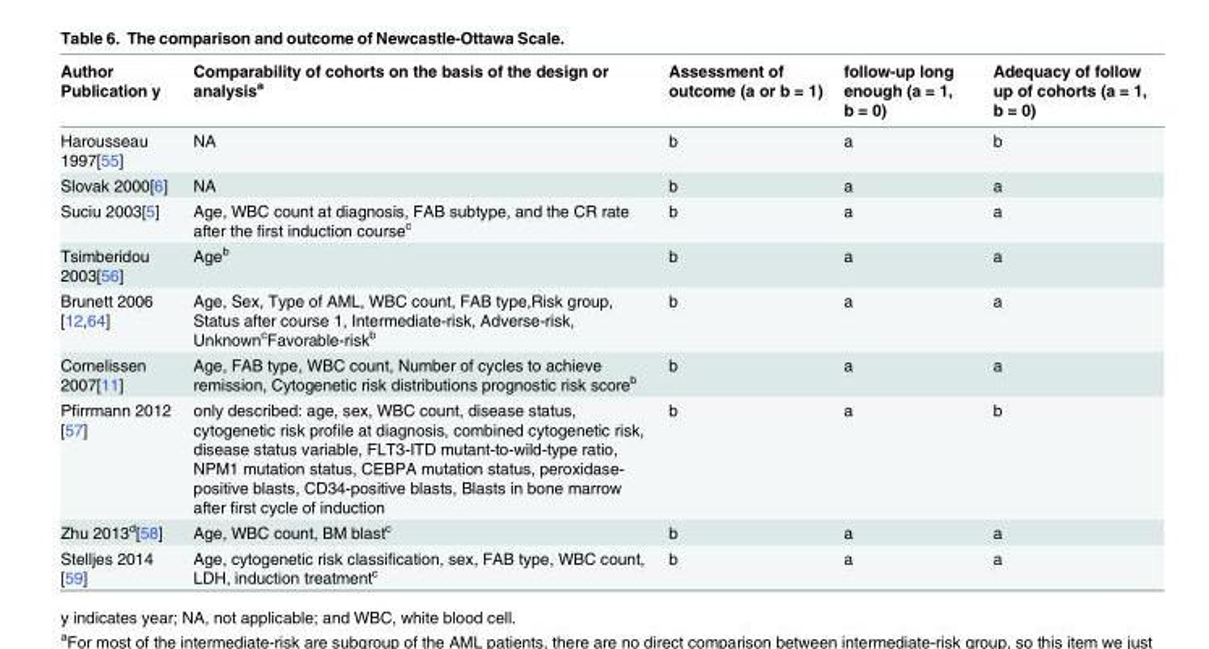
<table><thead><tr><td>Author Publication y</td><td>Comparability of cohorts on the basis of the design or analysis<sup>a</sup></td><td>Assessment of outcome (a or b = 1)</td><td>follow-up long enough (a = 1, b = 0)</td><td>Adequacy of follow up of cohorts (a = 1, b = 0)</td></tr></thead><tbody><tr><td>Harousseau 1997[55]</td><td>NA</td><td>b</td><td>a</td><td>b</td></tr><tr><td>Slovak 2000[6]</td><td>NA</td><td>b</td><td>a</td><td>a</td></tr><tr><td>Suciu 2003[5]</td><td>Age, WBC count at diagnosis, FAB subtype, and the CR rate after the first induction course<sup>c</sup></td><td>b</td><td>a</td><td>a</td></tr><tr><td>Tsimberidou 2003[56]</td><td>Age<sup>b</sup></td><td>b</td><td>a</td><td>a</td></tr><tr><td>Brunett 2006 [12,64]</td><td>Age, Sex, Type of AML, WBC count, FAB type,Risk group, Status after course 1, Intermediate-risk, Adverse-risk, Unknown<sup>c</sup>Favorable-risk<sup>b</sup></td><td>b</td><td>a</td><td>a</td></tr><tr><td>Cornelissen 2007[11]</td><td>Age, FAB type, WBC count, Number of cycles to achieve remission, Cytogenetic risk distributions prognostic risk score<sup>b</sup></td><td>b</td><td>a</td><td>a</td></tr><tr><td>Pfirrmann 2012 [57]</td><td>only described: age, sex, WBC count, disease status, cytogenetic risk profile at diagnosis, combined cytogenetic risk, disease status variable, FLT3-ITD mutant-to-wild-type ratio, NPM1 mutation status, CEBPA mutation status, peroxidase- positive blasts, CD34-positive blasts, Blasts in bone marrow after first cycle of induction</td><td>b</td><td>a</td><td>b</td></tr><tr><td>Zhu 2013<sup>d</sup>[58]</td><td>Age, WBC count, BM blast<sup>c</sup></td><td>b</td><td>a</td><td>a</td></tr><tr><td>Stelljes 2014 [59]</td><td>Age, cytogenetic risk classification, sex, FAB type, WBC count, LDH, induction treatment<sup>c</sup></td><td>b</td><td>a</td><td>a</td></tr></tbody></table>